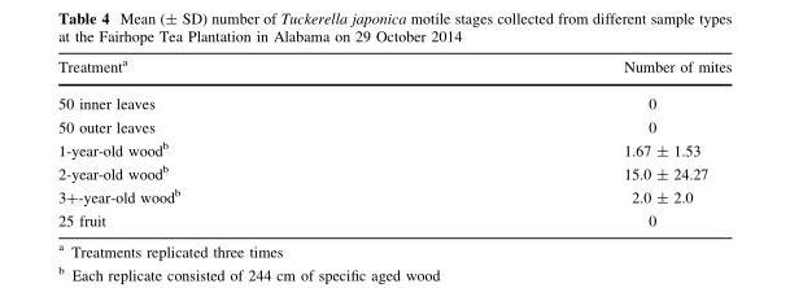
<table><thead><tr><td>Treatment<sup>a</sup></td><td>Number of mites</td></tr></thead><tbody><tr><td>50 inner leaves</td><td>0</td></tr><tr><td>50 outer leaves</td><td>0</td></tr><tr><td>1-year-old wood<sup>b</sup></td><td>1.67 ± 1.53</td></tr><tr><td>2-year-old wood<sup>b</sup></td><td>15.0 ± 24.27</td></tr><tr><td>3+-year-old wood<sup>b</sup></td><td>2.0 ± 2.0</td></tr><tr><td>25 fruit</td><td>0</td></tr></tbody></table>